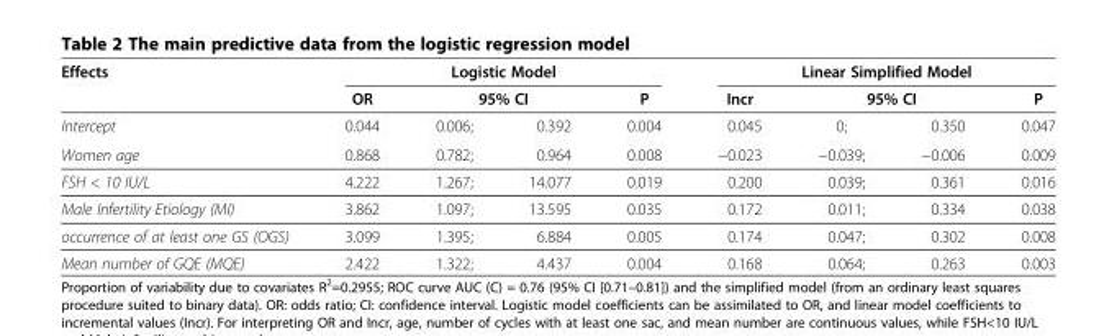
<table><thead><tr><td rowspan="3">Effects Intercept</td><td colspan="4">Logistic Model</td><td colspan="4">Linear Simplified Model</td></tr><tr><td rowspan="2">OR 0.044</td><td colspan="2">95% CI</td><td rowspan="2">P 0.004</td><td rowspan="2">Incr 0.045</td><td colspan="2">95% CI</td><td rowspan="2">P 0.047</td></tr><tr><td>0.006;</td><td>0.392</td><td>0;</td><td>0.350</td></tr></thead><tbody><tr><td>Women age</td><td>0.868</td><td>0.782;</td><td>0.964</td><td>0.008</td><td>−0.023</td><td>−0.039;</td><td>−0.006</td><td>0.009</td></tr><tr><td>FSH &lt; 10 IU/L</td><td>4.222</td><td>1.267;</td><td>14.077</td><td>0.019</td><td>0.200</td><td>0.039;</td><td>0.361</td><td>0.016</td></tr><tr><td>Male Infertility Etiology (MI)</td><td>3.862</td><td>1.097;</td><td>13.595</td><td>0.035</td><td>0.172</td><td>0.011;</td><td>0.334</td><td>0.038</td></tr><tr><td>occurrence of at least one GS (OGS)</td><td>3.099</td><td>1.395;</td><td>6.884</td><td>0.005</td><td>0.174</td><td>0.047;</td><td>0.302</td><td>0.008</td></tr><tr><td>Mean number of GQE (MQE)</td><td>2.422</td><td>1.322;</td><td>4.437</td><td>0.004</td><td>0.168</td><td>0.064;</td><td>0.263</td><td>0.003</td></tr></tbody></table>